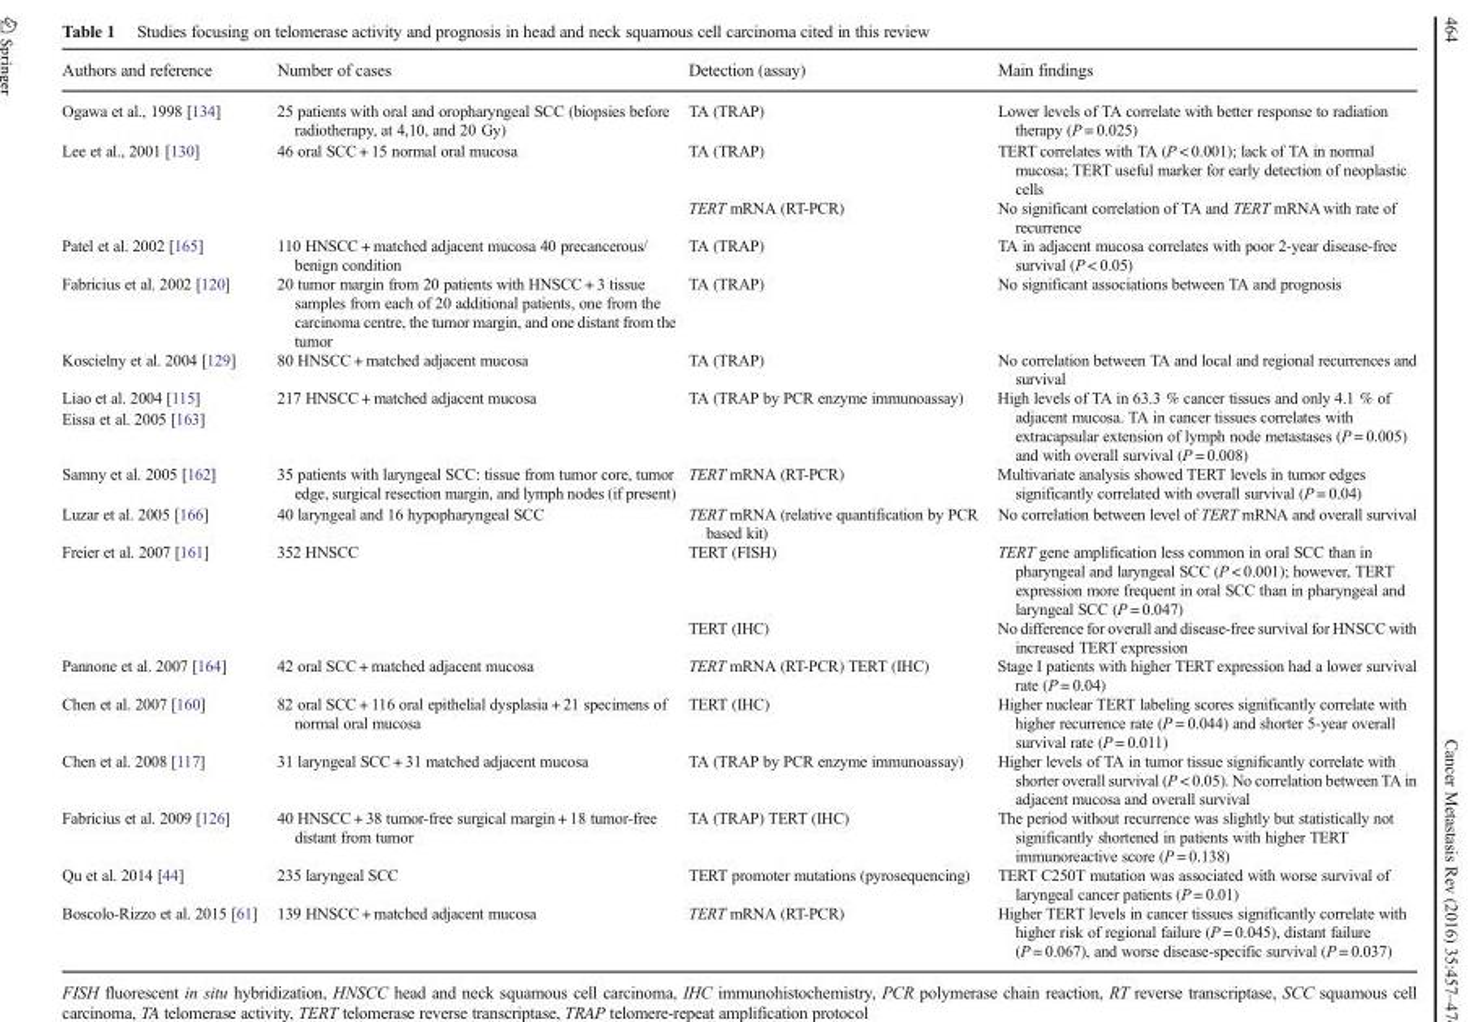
<table><thead><tr><td>Authors and reference</td><td>Number of cases</td><td>Detection (assay)</td><td>Main findings</td></tr></thead><tbody><tr><td>Ogawa et al., 1998 [134]</td><td>25 patients with oral and oropharyngeal SCC (biopsies before radiotherapy, at 4,10, and 20 Gy)</td><td>TA (TRAP)</td><td>Lower levels of TA correlate with better response to radiation therapy (P = 0.025)</td></tr><tr><td rowspan="2">Lee et al., 2001 [130]</td><td rowspan="2">46 oral SCC + 15 normal oral mucosa</td><td>TA (TRAP)</td><td>TERT correlates with TA (P &lt; 0.001); lack of TA in normal mucosa; TERT useful marker for early detection of neoplastic cells</td></tr><tr><td>TERT mRNA (RT-PCR)</td><td>No significant correlation of TA and TERT mRNA with rate of recurrence</td></tr><tr><td>Patel et al. 2002 [165]</td><td>110 HNSCC + matched adjacent mucosa 40 precancerous/ benign condition</td><td>TA (TRAP)</td><td>TA in adjacent mucosa correlates with poor 2-year disease-free survival (P &lt; 0.05)</td></tr><tr><td>Fabricius et al. 2002 [120]</td><td>20 tumor margin from 20 patients with HNSCC + 3 tissue samples from each of 20 additional patients, one from the carcinoma centre, the tumor margin, and one distant from the tumor</td><td>TA (TRAP)</td><td>No significant associations between TA and prognosis</td></tr><tr><td>Koscielny et al. 2004 [129]</td><td>80 HNSCC + matched adjacent mucosa</td><td>TA (TRAP)</td><td>No correlation between TA and local and regional recurrences and survival</td></tr><tr><td>Liao et al. 2004 [115]</td><td rowspan="2">217 HNSCC + matched adjacent mucosa</td><td rowspan="2">TA (TRAP by PCR enzyme immunoassay)</td><td rowspan="2">High levels of TA in 63.3 % cancer tissues and only 4.1 % of adjacent mucosa. TA in cancer tissues correlates with extracapsular extension of lymph node metastases (P = 0.005) and with overall survival (P = 0.008)</td></tr><tr><td>Eissa et al. 2005 [163]</td></tr><tr><td>Samny et al. 2005 [162]</td><td>35 patients with laryngeal SCC: tissue from tumor core, tumor edge, surgical resection margin, and lymph nodes (if present)</td><td>TERT mRNA (RT-PCR)</td><td>Multivariate analysis showed TERT levels in tumor edges significantly correlated with overall survival (P = 0.04)</td></tr><tr><td>Luzar et al. 2005 [166]</td><td>40 laryngeal and 16 hypopharyngeal SCC</td><td>TERT mRNA (relative quantification by PCR based kit)</td><td>No correlation between level of TERT mRNA and overall survival</td></tr><tr><td rowspan="2">Freier et al. 2007 [161]</td><td rowspan="2">352 HNSCC</td><td>TERT (FISH)</td><td>TERT gene amplification less common in oral SCC than in pharyngeal and laryngeal SCC (P &lt; 0.001); however, TERT expression more frequent in oral SCC than in pharyngeal and laryngeal SCC (P = 0.047)</td></tr><tr><td>TERT (IHC)</td><td>No difference for overall and disease-free survival for HNSCC with increased TERT expression</td></tr><tr><td>Pannone et al. 2007 [164]</td><td>42 oral SCC + matched adjacent mucosa</td><td>TERT mRNA (RT-PCR) TERT (IHC)</td><td>Stage I patients with higher TERT expression had a lower survival rate (P = 0.04)</td></tr><tr><td>Chen et al. 2007 [160]</td><td>82 oral SCC + 116 oral epithelial dysplasia + 21 specimens of normal oral mucosa</td><td>TERT (IHC)</td><td>Higher nuclear TERT labeling scores significantly correlate with higher recurrence rate (P = 0.044) and shorter 5-year overall survival rate (P = 0.011)</td></tr><tr><td>Chen et al. 2008 [117]</td><td>31 laryngeal SCC + 31 matched adjacent mucosa</td><td>TA (TRAP by PCR enzyme immunoassay)</td><td>Higher levels of TA in tumor tissue significantly correlate with shorter overall survival (P &lt; 0.05). No correlation between TA in adjacent mucosa and overall survival</td></tr><tr><td>Fabricius et al. 2009 [126]</td><td>40 HNSCC + 38 tumor-free surgical margin + 18 tumor-free distant from tumor</td><td>TA (TRAP) TERT (IHC)</td><td>The period without recurrence was slightly but statistically not significantly shortened in patients with higher TERT immunoreactive score (P = 0.138)</td></tr><tr><td>Qu et al. 2014 [44]</td><td>235 laryngeal SCC</td><td>TERT promoter mutations (pyrosequencing)</td><td>TERT C250T mutation was associated with worse survival of laryngeal cancer patients (P = 0.01)</td></tr><tr><td>Boscolo-Rizzo et al. 2015 [61]</td><td>139 HNSCC + matched adjacent mucosa</td><td>TERT mRNA (RT-PCR)</td><td>Higher TERT levels in cancer tissues significantly correlate with higher risk of regional failure (P = 0.045), distant failure (P = 0.067), and worse disease-specific survival (P = 0.037)</td></tr></tbody></table>